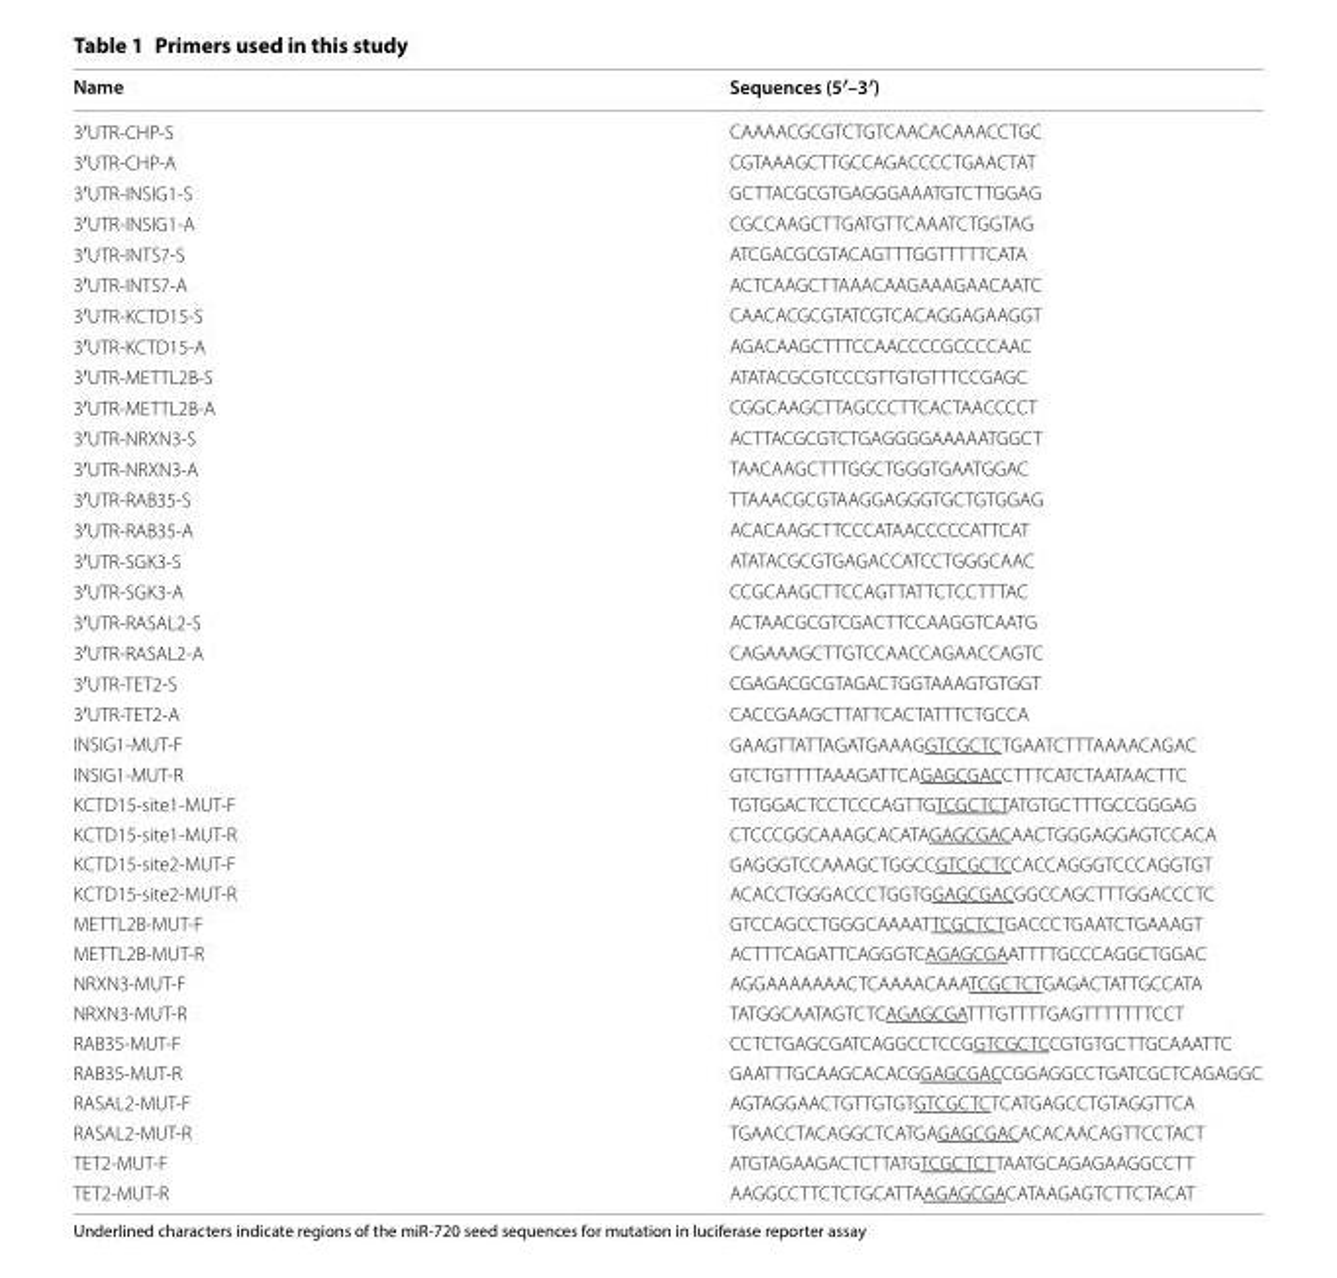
<table><thead><tr><td>Name</td><td>Sequences (5′–3′)</td></tr></thead><tbody><tr><td>3′UTR-CHP-S</td><td>CAAAACGCGTCTGTCAACACAAACCTGC</td></tr><tr><td>3′UTR-CHP-A</td><td>CGTAAAGCTTGCCAGACCCCTGAACTAT</td></tr><tr><td>3′UTR-INSIG1-S</td><td>GCTTACGCGTGAGGGAAATGTCTTGGAG</td></tr><tr><td>3′UTR-INSIG1-A</td><td>CGCCAAGCTTGATGTTCAAATCTGGTAG</td></tr><tr><td>3′UTR-INTS7-S</td><td>ATCGACGCGTACAGTTTGGTTTTTCATA</td></tr><tr><td>3′UTR-INTS7-A</td><td>ACTCAAGCTTAAACAAGAAAGAACAATC</td></tr><tr><td>3′UTR-KCTD15-S</td><td>CAACACGCGTATCGTCACAGGAGAAGGT</td></tr><tr><td>3′UTR-KCTD15-A</td><td>AGACAAGCTTTCCAACCCCGCCCCAAC</td></tr><tr><td>3′UTR-METTL2B-S</td><td>ATATACGCGTCCCGTTGTGTTTCCGAGC</td></tr><tr><td>3′UTR-METTL2B-A</td><td>CGGCAAGCTTAGCCCTTCACTAACCCCT</td></tr><tr><td>3′UTR-NRXN3-S</td><td>ACTTACGCGTCTGAGGGGAAAAATGGCT</td></tr><tr><td>3′UTR-NRXN3-A</td><td>TAACAAGCTTTGGCTGGGTGAATGGAC</td></tr><tr><td>3′UTR-RAB35-S</td><td>TTAAACGCGTAAGGAGGGTGCTGTGGAG</td></tr><tr><td>3′UTR-RAB35-A</td><td>ACACAAGCTTCCCATAACCCCCATTCAT</td></tr><tr><td>3′UTR-SGK3-S</td><td>ATATACGCGTGAGACCATCCTGGGCAAC</td></tr><tr><td>3′UTR-SGK3-A</td><td>CCGCAAGCTTCCAGTTATTCTCCTTTAC</td></tr><tr><td>3′UTR-RASAL2-S</td><td>ACTAACGCGTCGACTTCCAAGGTCAATG</td></tr><tr><td>3′UTR-RASAL2-A</td><td>CAGAAAGCTTGTCCAACCAGAACCAGTC</td></tr><tr><td>3′UTR-TET2-S</td><td>CGAGACGCGTAGACTGGTAAAGTGTGGT</td></tr><tr><td>3′UTR-TET2-A</td><td>CACCGAAGCTTATTCACTATTTCTGCCA</td></tr><tr><td>INSIG1-MUT-F</td><td>GAAGTTATTAGATGAAAGGTCGCTCTGAATCTTTAAAACAGAC</td></tr><tr><td>INSIG1-MUT-R</td><td>GTCTGTTTTAAAGATTCAGAGCGACCTTTCATCTAATAACTTC</td></tr><tr><td>KCTD15-site1-MUT-F</td><td>TGTGGACTCCTCCCAGTTGTCGCTCTATGTGCTTTGCCGGGAG</td></tr><tr><td>KCTD15-site1-MUT-R</td><td>CTCCCGGCAAAGCACATAGAGCGACAACTGGGAGGAGTCCACA</td></tr><tr><td>KCTD15-site2-MUT-F</td><td>GAGGGTCCAAAGCTGGCCGTCGCTCCACCAGGGTCCCAGGTGT</td></tr><tr><td>KCTD15-site2-MUT-R</td><td>ACACCTGGGACCCTGGTGGAGCGACGGCCAGCTTTGGACCCTC</td></tr><tr><td>METTL2B-MUT-F</td><td>GTCCAGCCTGGGCAAAATTCGCTCTGACCCTGAATCTGAAAGT</td></tr><tr><td>METTL2B-MUT-R</td><td>ACTTTCAGATTCAGGGTCAGAGCGAATTTTGCCCAGGCTGGAC</td></tr><tr><td>NRXN3-MUT-F</td><td>AGGAAAAAAACTCAAAACAAATCGCTCTGAGACTATTGCCATA</td></tr><tr><td>NRXN3-MUT-R</td><td>TATGGCAATAGTCTCAGAGCGATTTGTTTTGAGTTTTTTTCCT</td></tr><tr><td>RAB35-MUT-F</td><td>CCTCTGAGCGATCAGGCCTCCGGTCGCTCCGTGTGCTTGCAAATTC</td></tr><tr><td>RAB35-MUT-R</td><td>GAATTTGCAAGCACACGGAGCGACCGGAGGCCTGATCGCTCAGAGGC</td></tr><tr><td>RASAL2-MUT-F</td><td>AGTAGGAACTGTTGTGTGTCGCTCTCATGAGCCTGTAGGTTCA</td></tr><tr><td>RASAL2-MUT-R</td><td>TGAACCTACAGGCTCATGAGAGCGACACACAACAGTTCCTACT</td></tr><tr><td>TET2-MUT-F</td><td>ATGTAGAAGACTCTTATGTCGCTCTTAATGCAGAGAAGGCCTT</td></tr><tr><td>TET2-MUT-R</td><td>AAGGCCTTCTCTGCATTAAGAGCGACATAAGAGTCTTCTACAT</td></tr></tbody></table>